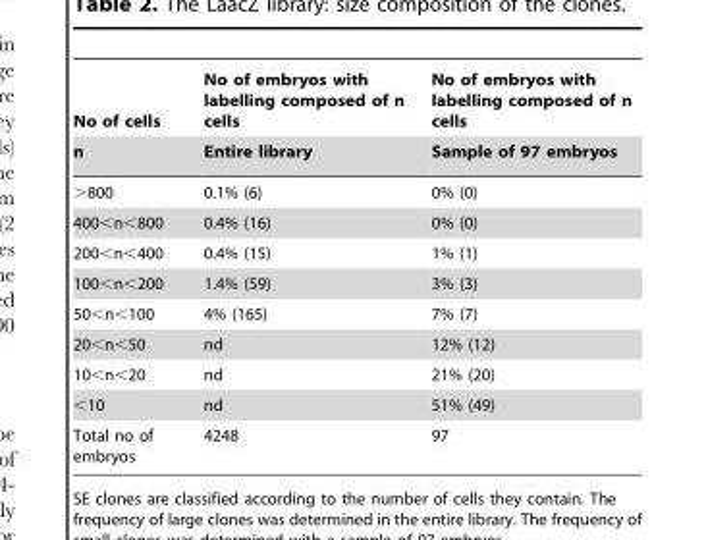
<table><thead><tr><td rowspan="2">No of cells n</td><td rowspan="2">No of embryos with labelling composed of n cells Entire library</td><td rowspan="2">No of embryos with labelling composed of n cells Sample of 97 embryos</td></tr><tr></tr></thead><tbody><tr><td>&gt;800</td><td>0.1% (6)</td><td>0% (0)</td></tr><tr><td>400&lt;n&lt;800</td><td>0.4% (16)</td><td>0% (0)</td></tr><tr><td>200&lt;n&lt;400</td><td>0.4% (15)</td><td>1% (1)</td></tr><tr><td>100&lt;n&lt;200</td><td>1.4% (59)</td><td>3% (3)</td></tr><tr><td>50&lt;n&lt;100</td><td>4% (165)</td><td>7% (7)</td></tr><tr><td>20&lt;n&lt;50</td><td>nd</td><td>12% (12)</td></tr><tr><td>10&lt;n&lt;20</td><td>nd</td><td>21% (20)</td></tr><tr><td>&lt;10</td><td>nd</td><td>51% (49)</td></tr><tr><td>Total no of embryos</td><td>4248</td><td>97</td></tr></tbody></table>